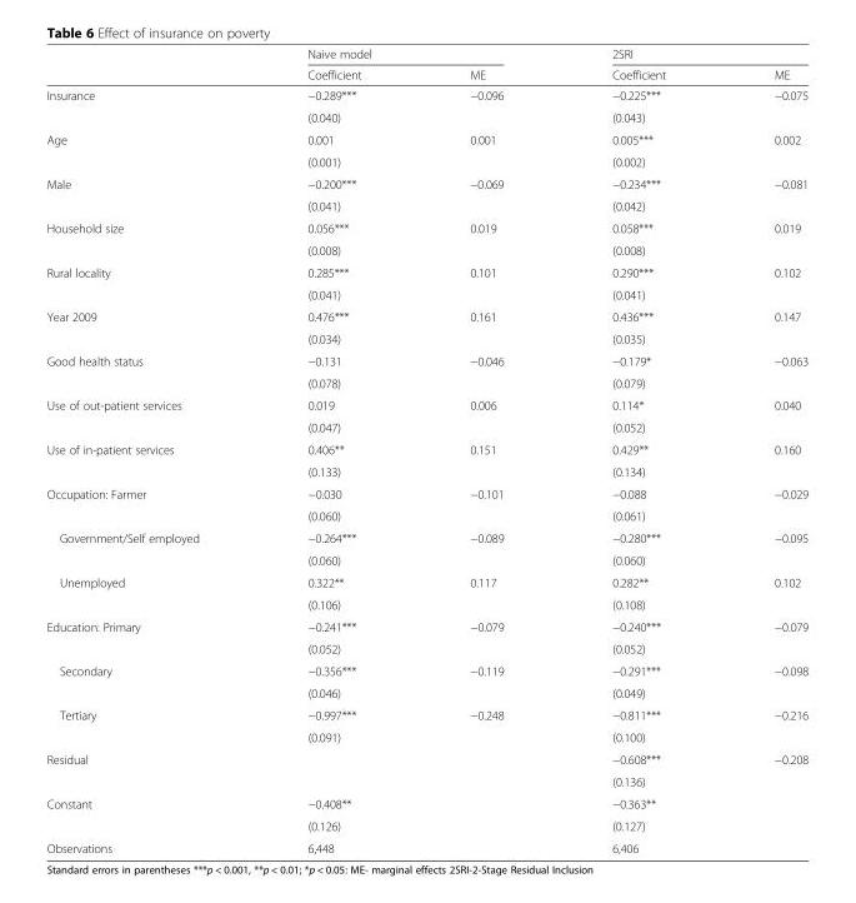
<table><thead><tr><td rowspan="2"></td><td colspan="2">Naive model</td><td colspan="2">2SRI</td></tr><tr><td>Coefficient</td><td>ME</td><td>Coefficient</td><td>ME</td></tr></thead><tbody><tr><td rowspan="2">Insurance</td><td>−0.289***</td><td>−0.096</td><td>−0.225***</td><td>−0.075</td></tr><tr><td>(0.040)</td><td></td><td>(0.043)</td><td></td></tr><tr><td rowspan="2">Age</td><td>0.001</td><td>0.001</td><td>0.005***</td><td>0.002</td></tr><tr><td>(0.001)</td><td></td><td>(0.002)</td><td></td></tr><tr><td rowspan="2">Male</td><td>−0.200***</td><td>−0.069</td><td>−0.234***</td><td>−0.081</td></tr><tr><td>(0.041)</td><td></td><td>(0.042)</td><td></td></tr><tr><td rowspan="2">Household size</td><td>0.056***</td><td>0.019</td><td>0.058***</td><td>0.019</td></tr><tr><td>(0.008)</td><td></td><td>(0.008)</td><td></td></tr><tr><td rowspan="2">Rural locality</td><td>0.285***</td><td>0.101</td><td>0.290***</td><td>0.102</td></tr><tr><td>(0.041)</td><td></td><td>(0.041)</td><td></td></tr><tr><td rowspan="2">Year 2009</td><td>0.476***</td><td>0.161</td><td>0.436***</td><td>0.147</td></tr><tr><td>(0.034)</td><td></td><td>(0.035)</td><td></td></tr><tr><td rowspan="2">Good health status</td><td>−0.131</td><td>−0.046</td><td>−0.179*</td><td>−0.063</td></tr><tr><td>(0.078)</td><td></td><td>(0.079)</td><td></td></tr><tr><td rowspan="2">Use of out-patient services</td><td>0.019</td><td>0.006</td><td>0.114*</td><td>0.040</td></tr><tr><td>(0.047)</td><td></td><td>(0.052)</td><td></td></tr><tr><td rowspan="2">Use of in-patient services</td><td>0.406**</td><td>0.151</td><td>0.429**</td><td>0.160</td></tr><tr><td>(0.133)</td><td></td><td>(0.134)</td><td></td></tr><tr><td rowspan="2">Occupation: Farmer</td><td>−0.030</td><td>−0.101</td><td>−0.088</td><td>−0.029</td></tr><tr><td>(0.060)</td><td></td><td>(0.061)</td><td></td></tr><tr><td rowspan="2">Government/Self employed</td><td>−0.264***</td><td>−0.089</td><td>−0.280***</td><td>−0.095</td></tr><tr><td>(0.060)</td><td></td><td>(0.060)</td><td></td></tr><tr><td rowspan="2">Unemployed</td><td>0.322**</td><td>0.117</td><td>0.282**</td><td>0.102</td></tr><tr><td>(0.106)</td><td></td><td>(0.108)</td><td></td></tr><tr><td rowspan="2">Education: Primary</td><td>−0.241***</td><td>−0.079</td><td>−0.240***</td><td>−0.079</td></tr><tr><td>(0.052)</td><td></td><td>(0.052)</td><td></td></tr><tr><td rowspan="2">Secondary</td><td>−0.356***</td><td>−0.119</td><td>−0.291***</td><td>−0.098</td></tr><tr><td>(0.046)</td><td></td><td>(0.049)</td><td></td></tr><tr><td rowspan="2">Tertiary</td><td>−0.997***</td><td>−0.248</td><td>−0.811***</td><td>−0.216</td></tr><tr><td>(0.091)</td><td></td><td>(0.100)</td><td></td></tr><tr><td rowspan="2">Residual</td><td></td><td></td><td>−0.608***</td><td>−0.208</td></tr><tr><td></td><td></td><td>(0.136)</td><td></td></tr><tr><td rowspan="2">Constant</td><td>−0.408**</td><td></td><td>−0.363**</td><td></td></tr><tr><td>(0.126)</td><td></td><td>(0.127)</td><td></td></tr><tr><td>Observations</td><td>6,448</td><td></td><td>6,406</td><td></td></tr></tbody></table>